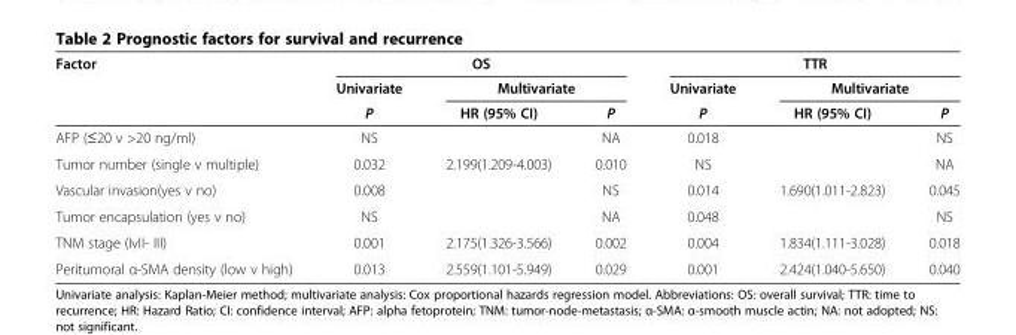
<table><thead><tr><td rowspan="3">Factor</td><td colspan="3">OS</td><td colspan="3">TTR</td></tr><tr><td rowspan="2">Univariate P</td><td colspan="2">Multivariate</td><td rowspan="2">Univariate P</td><td colspan="2">Multivariate</td></tr><tr><td>HR (95% CI)</td><td>P</td><td>HR (95% CI)</td><td>P</td></tr></thead><tbody><tr><td>AFP (≤20 v &gt;20 ng/ml)</td><td>NS</td><td></td><td>NA</td><td>0.018</td><td></td><td>NS</td></tr><tr><td>Tumor number (single v multiple)</td><td>0.032</td><td>2.199(1.209-4.003)</td><td>0.010</td><td>NS</td><td></td><td>NA</td></tr><tr><td>Vascular invasion(yes v no)</td><td>0.008</td><td></td><td>NS</td><td>0.014</td><td>1.690(1.011-2.823)</td><td>0.045</td></tr><tr><td>Tumor encapsulation (yes v no)</td><td>NS</td><td></td><td>NA</td><td>0.048</td><td></td><td>NS</td></tr><tr><td>TNM stage (IvII- III)</td><td>0.001</td><td>2.175(1.326-3.566)</td><td>0.002</td><td>0.004</td><td>1.834(1.111-3.028)</td><td>0.018</td></tr><tr><td>Peritumoral α-SMA density (low v high)</td><td>0.013</td><td>2.559(1.101-5.949)</td><td>0.029</td><td>0.001</td><td>2.424(1.040-5.650)</td><td>0.040</td></tr></tbody></table>